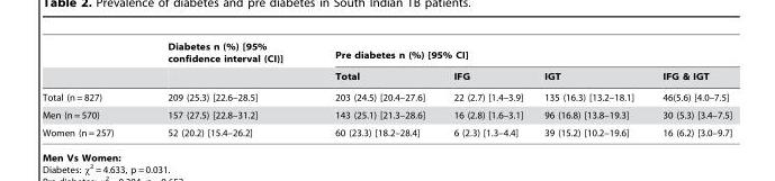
<table><thead><tr><td rowspan="2"></td><td rowspan="2">Diabetes n (%) [95% confidence interval (CI)]</td><td colspan="4">Pre diabetes n (%) [95% CI]</td></tr><tr><td>Total</td><td>IFG</td><td>IGT</td><td>IFG &amp; IGT</td></tr></thead><tbody><tr><td>Total (n = 827)</td><td>209 (25.3) [22.6–28.5]</td><td>203 (24.5) [20.4–27.6]</td><td>22 (2.7) [1.4–3.9]</td><td>135 (16.3) [13.2–18.1]</td><td>46(5.6) [4.0–7.5]</td></tr><tr><td>Men (n = 570)</td><td>157 (27.5) [22.8–31.2]</td><td>143 (25.1) [21.3–28.6]</td><td>16 (2.8) [1.6–3.1]</td><td>96 (16.8) [13.8–19.3]</td><td>30 (5.3) [3.4–7.5]</td></tr><tr><td>Women (n = 257)</td><td>52 (20.2) [15.4–26.2]</td><td>60 (23.3) [18.2–28.4]</td><td>6 (2.3) [1.3–4.4]</td><td>39 (15.2) [10.2–19.6]</td><td>16 (6.2) [3.0–9.7]</td></tr></tbody></table>